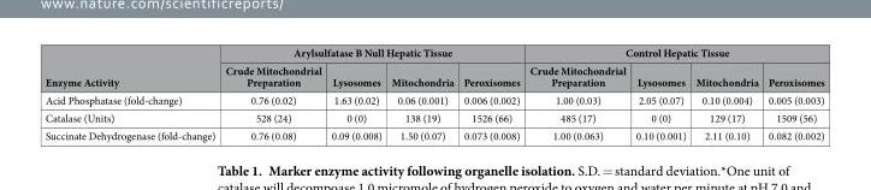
<table><thead><tr><td rowspan="2">Enzyme Activity</td><td colspan="4">Arylsulfatase B Null Hepatic Tissue</td><td colspan="4">Control Hepatic Tissue</td></tr><tr><td>Crude Mitochondrial Preparation</td><td>Lysosomes</td><td>Mitochondria</td><td>Peroxisomes</td><td>Crude Mitochondrial Preparation</td><td>Lysosomes</td><td>Mitochondria</td><td>Peroxisomes</td></tr></thead><tbody><tr><td>Acid Phosphatase (fold-change)</td><td>0.76 (0.02)</td><td>1.63 (0.02)</td><td>0.06 (0.001)</td><td>0.006 (0.002)</td><td>1.00 (0.03)</td><td>2.05 (0.07)</td><td>0.10 (0.004)</td><td>0.005 (0.003)</td></tr><tr><td>Catalase (Units)</td><td>528 (24)</td><td>0 (0)</td><td>138 (19)</td><td>1526 (66)</td><td>485 (17)</td><td>0 (0)</td><td>129 (17)</td><td>1509 (56)</td></tr><tr><td>Succinate Dehydrogenase (fold-change)</td><td>0.76 (0.08)</td><td>0.09 (0.008)</td><td>1.50 (0.07)</td><td>0.073 (0.008)</td><td>1.00 (0.063)</td><td>0.10 (0.001)</td><td>2.11 (0.10)</td><td>0.082 (0.002)</td></tr></tbody></table>